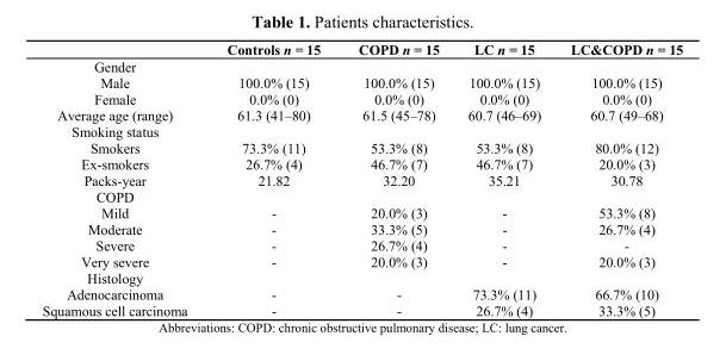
<table><thead><tr><td></td><td>Controls n = 15</td><td>COPD n = 15</td><td>LC n = 15</td><td>LC&amp;COPD n = 15</td></tr></thead><tbody><tr><td colspan="5">Gender</td></tr><tr><td>Male</td><td>100.0% (15)</td><td>100.0% (15)</td><td>100.0% (15)</td><td>100.0% (15)</td></tr><tr><td>Female</td><td>0.0% (0)</td><td>0.0% (0)</td><td>0.0% (0)</td><td>0.0% (0)</td></tr><tr><td>Average age (range)</td><td>61.3 (41–80)</td><td>61.5 (45–78)</td><td>60.7 (46–69)</td><td>60.7 (49–68)</td></tr><tr><td>Smoking status Smokers</td><td>73.3% (11)</td><td>53.3% (8)</td><td>53.3% (8)</td><td>80.0% (12)</td></tr><tr><td>Ex-smokers</td><td>26.7% (4)</td><td>46.7% (7)</td><td>46.7% (7)</td><td>20.0% (3)</td></tr><tr><td>Packs-year</td><td>21.82</td><td>32.20</td><td>35.21</td><td>30.78</td></tr><tr><td colspan="5">COPD</td></tr><tr><td>Mild</td><td>-</td><td>20.0% (3)</td><td>-</td><td>53.3% (8)</td></tr><tr><td>Moderate</td><td>-</td><td>33.3% (5)</td><td>-</td><td>26.7% (4)</td></tr><tr><td>Severe</td><td>-</td><td>26.7% (4)</td><td>-</td><td>-</td></tr><tr><td>Very severe</td><td>-</td><td>20.0% (3)</td><td>-</td><td>20.0% (3)</td></tr><tr><td colspan="5">Histology</td></tr><tr><td>Adenocarcinoma</td><td>-</td><td>-</td><td>73.3% (11)</td><td>66.7% (10)</td></tr><tr><td>Squamous cell carcinoma</td><td>-</td><td>-</td><td>26.7% (4)</td><td>33.3% (5)</td></tr></tbody></table>